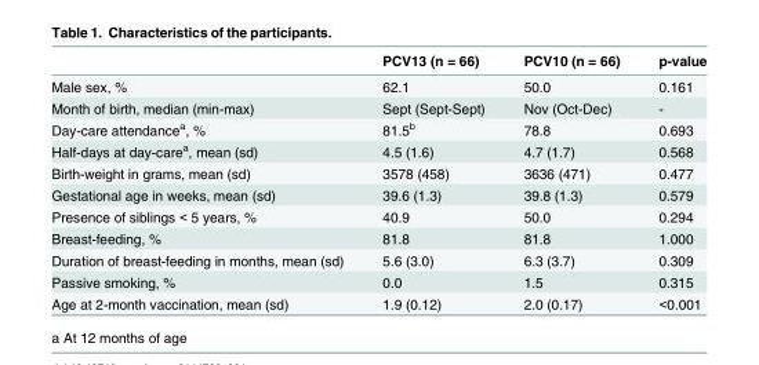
<table><thead><tr><td></td><td>PCV13 (n = 66)</td><td>PCV10 (n = 66)</td><td>p-value</td></tr></thead><tbody><tr><td>Male sex, %</td><td>62.1</td><td>50.0</td><td>0.161</td></tr><tr><td>Month of birth, median (min-max)</td><td>Sept (Sept-Sept)</td><td>Nov (Oct-Dec)</td><td>-</td></tr><tr><td>Day-care attendance<sup>a</sup>, %</td><td>81.5<sup>b</sup></td><td>78.8</td><td>0.693</td></tr><tr><td>Half-days at day-care<sup>a</sup>, mean (sd)</td><td>4.5 (1.6)</td><td>4.7 (1.7)</td><td>0.568</td></tr><tr><td>Birth-weight in grams, mean (sd)</td><td>3578 (458)</td><td>3636 (471)</td><td>0.477</td></tr><tr><td>Gestational age in weeks, mean (sd)</td><td>39.6 (1.3)</td><td>39.8 (1.3)</td><td>0.579</td></tr><tr><td>Presence of siblings &lt; 5 years, %</td><td>40.9</td><td>50.0</td><td>0.294</td></tr><tr><td>Breast-feeding, %</td><td>81.8</td><td>81.8</td><td>1.000</td></tr><tr><td>Duration of breast-feeding in months, mean (sd)</td><td>5.6 (3.0)</td><td>6.3 (3.7)</td><td>0.309</td></tr><tr><td>Passive smoking, %</td><td>0.0</td><td>1.5</td><td>0.315</td></tr><tr><td>Age at 2-month vaccination, mean (sd)</td><td>1.9 (0.12)</td><td>2.0 (0.17)</td><td>&lt;0.001</td></tr></tbody></table>